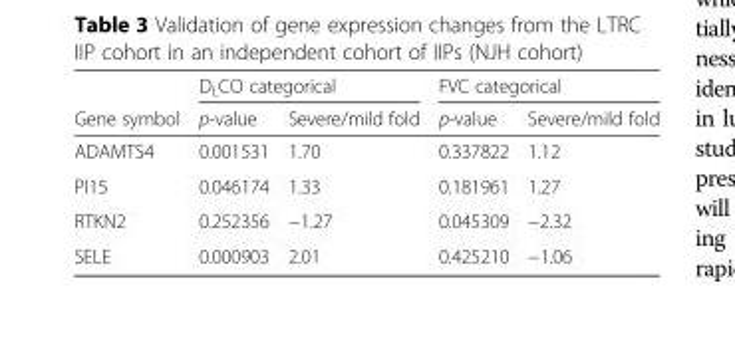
<table><thead><tr><td rowspan="2">Gene symbol</td><td colspan="2">D<sub>L</sub>CO categorical</td><td colspan="2">FVC categorical</td></tr><tr><td>p-value</td><td>Severe/mild fold</td><td>p-value</td><td>Severe/mild fold</td></tr></thead><tbody><tr><td>ADAMTS4</td><td>0.001531</td><td>1.70</td><td>0.337822</td><td>1.12</td></tr><tr><td>PI15</td><td>0.046174</td><td>1.33</td><td>0.181961</td><td>1.27</td></tr><tr><td>RTKN2</td><td>0.252356</td><td>−1.27</td><td>0.045309</td><td>−2.32</td></tr><tr><td>SELE</td><td>0.000903</td><td>2.01</td><td>0.425210</td><td>−1.06</td></tr></tbody></table>